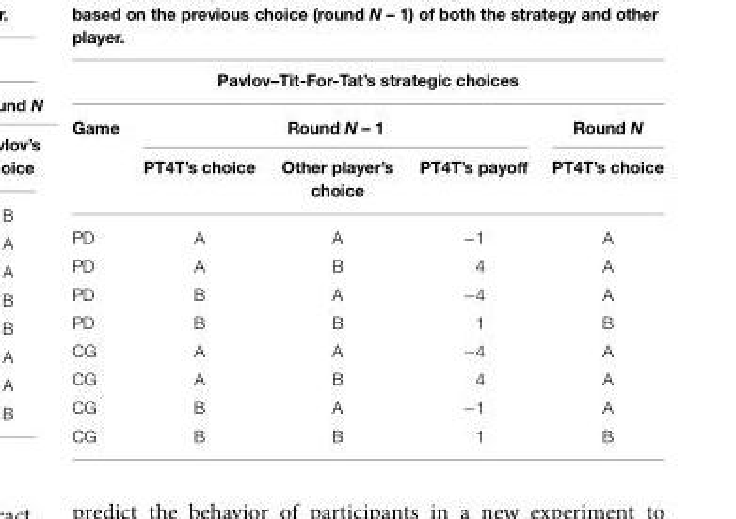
<table><thead><tr><td colspan="5">Pavlov–Tit-For-Tat’s strategic choices</td></tr><tr><td rowspan="2">Game</td><td colspan="3">Round N – 1</td><td rowspan="2">Round N PT4T’s choice</td></tr><tr><td>PT4T’s choice</td><td>Other player’s choice</td><td>PT4T’s payoff</td></tr></thead><tbody><tr><td>PD</td><td>A</td><td>A</td><td>−1</td><td>A</td></tr><tr><td>PD</td><td>A</td><td>B</td><td>4</td><td>A</td></tr><tr><td>PD</td><td>B</td><td>A</td><td>−4</td><td>A</td></tr><tr><td>PD</td><td>B</td><td>B</td><td>1</td><td>B</td></tr><tr><td>CG</td><td>A</td><td>A</td><td>−4</td><td>A</td></tr><tr><td>CG</td><td>A</td><td>B</td><td>4</td><td>A</td></tr><tr><td>CG</td><td>B</td><td>A</td><td>−1</td><td>A</td></tr><tr><td>CG</td><td>B</td><td>B</td><td>1</td><td>B</td></tr></tbody></table>